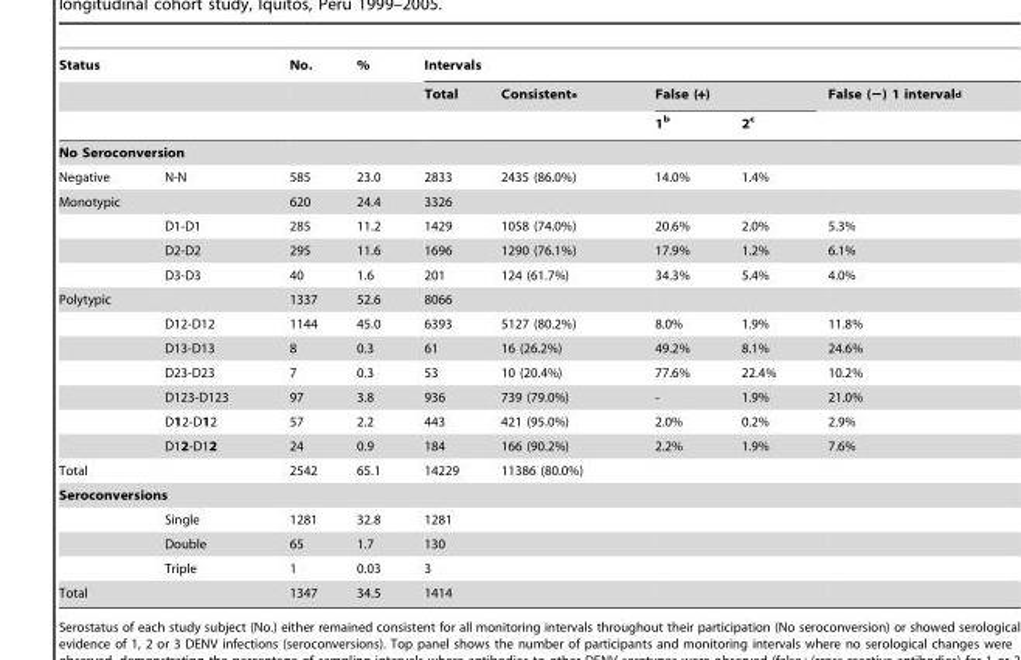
<table><thead><tr><td colspan="2">Status</td><td rowspan="3">No.</td><td rowspan="3">%</td><td colspan="5">Intervals</td></tr><tr><td rowspan="2"></td><td rowspan="2"></td><td rowspan="2">Total</td><td rowspan="2">Consistent<sup>a</sup></td><td colspan="2">False (+)</td><td rowspan="2">False (−) 1 interval<sup>d</sup></td></tr><tr><td>1<sup>b</sup></td><td>2<sup>c</sup></td></tr></thead><tbody><tr><td colspan="9">No Seroconversion</td></tr><tr><td>Negative</td><td>N-N</td><td>585</td><td>23.0</td><td>2833</td><td>2435 (86.0%)</td><td>14.0%</td><td>1.4%</td><td></td></tr><tr><td rowspan="4">Monotypic</td><td></td><td>620</td><td>24.4</td><td>3326</td><td></td><td></td><td></td><td></td></tr><tr><td>D1-D1</td><td>285</td><td>11.2</td><td>1429</td><td>1058 (74.0%)</td><td>20.6%</td><td>2.0%</td><td>5.3%</td></tr><tr><td>D2-D2</td><td>295</td><td>11.6</td><td>1696</td><td>1290 (76.1%)</td><td>17.9%</td><td>1.2%</td><td>6.1%</td></tr><tr><td>D3-D3</td><td>40</td><td>1.6</td><td>201</td><td>124 (61.7%)</td><td>34.3%</td><td>5.4%</td><td>4.0%</td></tr><tr><td rowspan="7">Polytypic</td><td></td><td>1337</td><td>52.6</td><td>8066</td><td></td><td></td><td></td><td></td></tr><tr><td>D12-D12</td><td>1144</td><td>45.0</td><td>6393</td><td>5127 (80.2%)</td><td>8.0%</td><td>1.9%</td><td>11.8%</td></tr><tr><td>D13-D13</td><td>8</td><td>0.3</td><td>61</td><td>16 (26.2%)</td><td>49.2%</td><td>8.1%</td><td>24.6%</td></tr><tr><td>D23-D23</td><td>7</td><td>0.3</td><td>53</td><td>10 (20.4%)</td><td>77.6%</td><td>22.4%</td><td>10.2%</td></tr><tr><td>D123-D123</td><td>97</td><td>3.8</td><td>936</td><td>739 (79.0%)</td><td>-</td><td>1.9%</td><td>21.0%</td></tr><tr><td>D12-D12</td><td>57</td><td>2.2</td><td>443</td><td>421 (95.0%)</td><td>2.0%</td><td>0.2%</td><td>2.9%</td></tr><tr><td>D12-D12</td><td>24</td><td>0.9</td><td>184</td><td>166 (90.2%)</td><td>2.2%</td><td>1.9%</td><td>7.6%</td></tr><tr><td>Total</td><td></td><td>2542</td><td>65.1</td><td>14229</td><td>11386 (80.0%)</td><td></td><td></td><td></td></tr><tr><td colspan="9">Seroconversions</td></tr><tr><td></td><td>Single</td><td>1281</td><td>32.8</td><td>1281</td><td></td><td></td><td></td><td></td></tr><tr><td></td><td>Double</td><td>65</td><td>1.7</td><td>130</td><td></td><td></td><td></td><td></td></tr><tr><td></td><td>Triple</td><td>1</td><td>0.03</td><td>3</td><td></td><td></td><td></td><td></td></tr><tr><td>Total</td><td></td><td>1347</td><td>34.5</td><td>1414</td><td></td><td></td><td></td><td></td></tr></tbody></table>